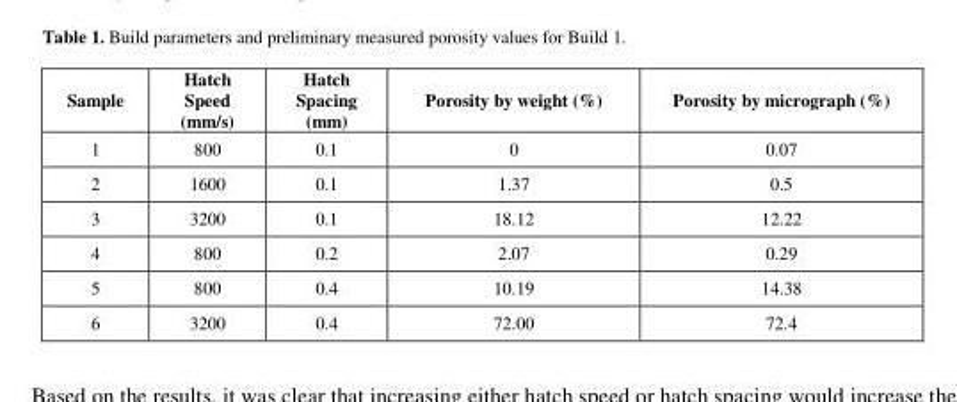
<table><thead><tr><td>Sample</td><td>Hatch Speed (mm/s)</td><td>Hatch Spacing (mm)</td><td>Porosity by weight (%)</td><td>Porosity by micrograph (%)</td></tr></thead><tbody><tr><td>1</td><td>800</td><td>0.1</td><td>0</td><td>0.07</td></tr><tr><td>2</td><td>1600</td><td>0.1</td><td>1.37</td><td>0.5</td></tr><tr><td>3</td><td>3200</td><td>0.1</td><td>18.12</td><td>12.22</td></tr><tr><td>4</td><td>800</td><td>0.2</td><td>2.07</td><td>0.29</td></tr><tr><td>5</td><td>800</td><td>0.4</td><td>10.19</td><td>14.38</td></tr><tr><td>6</td><td>3200</td><td>0.4</td><td>72.00</td><td>72.4</td></tr></tbody></table>